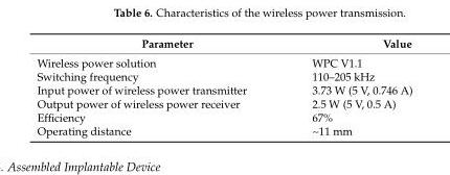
<table><thead><tr><td>Parameter</td><td>Value</td></tr></thead><tbody><tr><td>Wireless power solution</td><td>WPC V1.1</td></tr><tr><td>Switching frequency</td><td>110–205 kHz</td></tr><tr><td>Input power of wireless power transmitter</td><td>3.73 W (5 V, 0.746 A)</td></tr><tr><td>Output power of wireless power receiver</td><td>2.5 W (5 V, 0.5 A)</td></tr><tr><td>Efficiency</td><td>67%</td></tr><tr><td>Operating distance</td><td>~11 mm</td></tr></tbody></table>